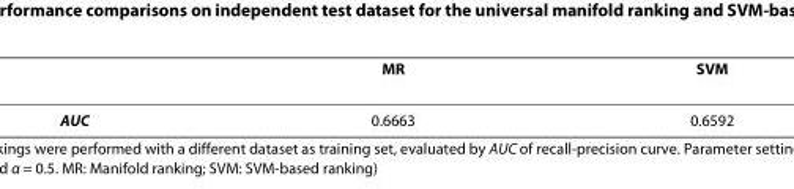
<table><thead><tr><td></td><td>MR</td><td>SVM</td></tr></thead><tbody><tr><td>AUC</td><td>0.6663</td><td>0.6592</td></tr></tbody></table>